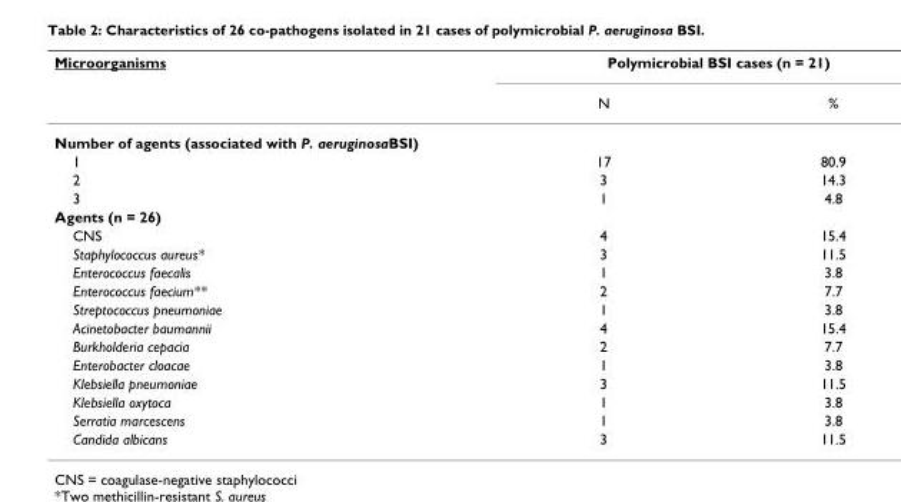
<table><thead><tr><td rowspan="2">Microorganisms</td><td colspan="2">Polymicrobial BSI cases (n = 21)</td></tr><tr><td>N</td><td>%</td></tr></thead><tbody><tr><td colspan="3">Number of agents (associated with P. aeruginosaBSI)</td></tr><tr><td>1</td><td>17</td><td>80.9</td></tr><tr><td>2</td><td>3</td><td>14.3</td></tr><tr><td>3</td><td>1</td><td>4.8</td></tr><tr><td colspan="3">Agents (n = 26)</td></tr><tr><td>CNS</td><td>4</td><td>15.4</td></tr><tr><td>Staphylococcus aureus*</td><td>3</td><td>11.5</td></tr><tr><td>Enterococcus faecalis</td><td>1</td><td>3.8</td></tr><tr><td>Enterococcus faecium**</td><td>2</td><td>7.7</td></tr><tr><td>Streptococcus pneumoniae</td><td>1</td><td>3.8</td></tr><tr><td>Acinetobacter baumannii</td><td>4</td><td>15.4</td></tr><tr><td>Burkholderia cepacia</td><td>2</td><td>7.7</td></tr><tr><td>Enterobacter cloacae</td><td>1</td><td>3.8</td></tr><tr><td>Klebsiella pneumoniae</td><td>3</td><td>11.5</td></tr><tr><td>Klebsiella oxytoca</td><td>1</td><td>3.8</td></tr><tr><td>Serratia marcescens</td><td>1</td><td>3.8</td></tr><tr><td>Candida albicans</td><td>3</td><td>11.5</td></tr></tbody></table>